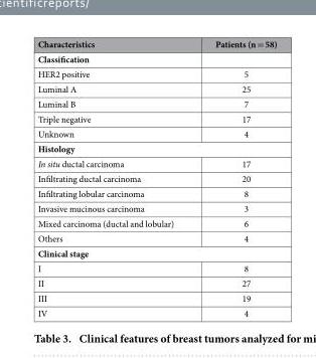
<table><thead><tr><td>Characteristics</td><td>Patients (n = 58)</td></tr></thead><tbody><tr><td colspan="2">Classification</td></tr><tr><td>HER2 positive</td><td>5</td></tr><tr><td>Luminal A</td><td>25</td></tr><tr><td>Luminal B</td><td>7</td></tr><tr><td>Triple negative</td><td>17</td></tr><tr><td>Unknown</td><td>4</td></tr><tr><td colspan="2">Histology</td></tr><tr><td>In situ ductal carcinoma</td><td>17</td></tr><tr><td>Infiltrating ductal carcinoma</td><td>20</td></tr><tr><td>Infiltrating lobular carcinoma</td><td>8</td></tr><tr><td>Invasive mucinous carcinoma</td><td>3</td></tr><tr><td>Mixed carcinoma (ductal and lobular)</td><td>6</td></tr><tr><td>Others</td><td>4</td></tr><tr><td colspan="2">Clinical stage</td></tr><tr><td>I</td><td>8</td></tr><tr><td>II</td><td>27</td></tr><tr><td>III</td><td>19</td></tr><tr><td>IV</td><td>4</td></tr></tbody></table>